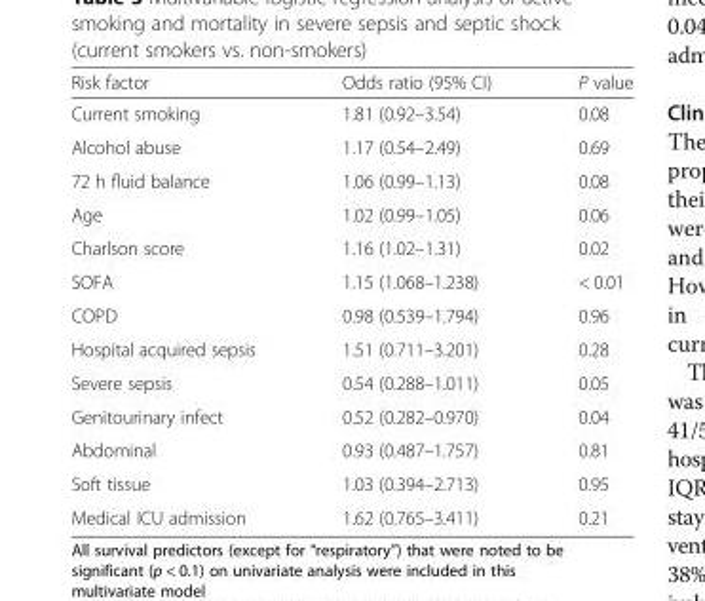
<table><thead><tr><td>Risk factor</td><td>Odds ratio (95% CI)</td><td>P value</td></tr></thead><tbody><tr><td>Current smoking</td><td>1.81 (0.92–3.54)</td><td>0.08</td></tr><tr><td>Alcohol abuse</td><td>1.17 (0.54–2.49)</td><td>0.69</td></tr><tr><td>72 h fluid balance</td><td>1.06 (0.99–1.13)</td><td>0.08</td></tr><tr><td>Age</td><td>1.02 (0.99–1.05)</td><td>0.06</td></tr><tr><td>Charlson score</td><td>1.16 (1.02–1.31)</td><td>0.02</td></tr><tr><td>SOFA</td><td>1.15 (1.068–1.238)</td><td>&lt; 0.01</td></tr><tr><td>COPD</td><td>0.98 (0.539–1.794)</td><td>0.96</td></tr><tr><td>Hospital acquired sepsis</td><td>1.51 (0.711–3.201)</td><td>0.28</td></tr><tr><td>Severe sepsis</td><td>0.54 (0.288–1.011)</td><td>0.05</td></tr><tr><td>Genitourinary infect</td><td>0.52 (0.282–0.970)</td><td>0.04</td></tr><tr><td>Abdominal</td><td>0.93 (0.487–1.757)</td><td>0.81</td></tr><tr><td>Soft tissue</td><td>1.03 (0.394–2.713)</td><td>0.95</td></tr><tr><td>Medical ICU admission</td><td>1.62 (0.765–3.411)</td><td>0.21</td></tr></tbody></table>